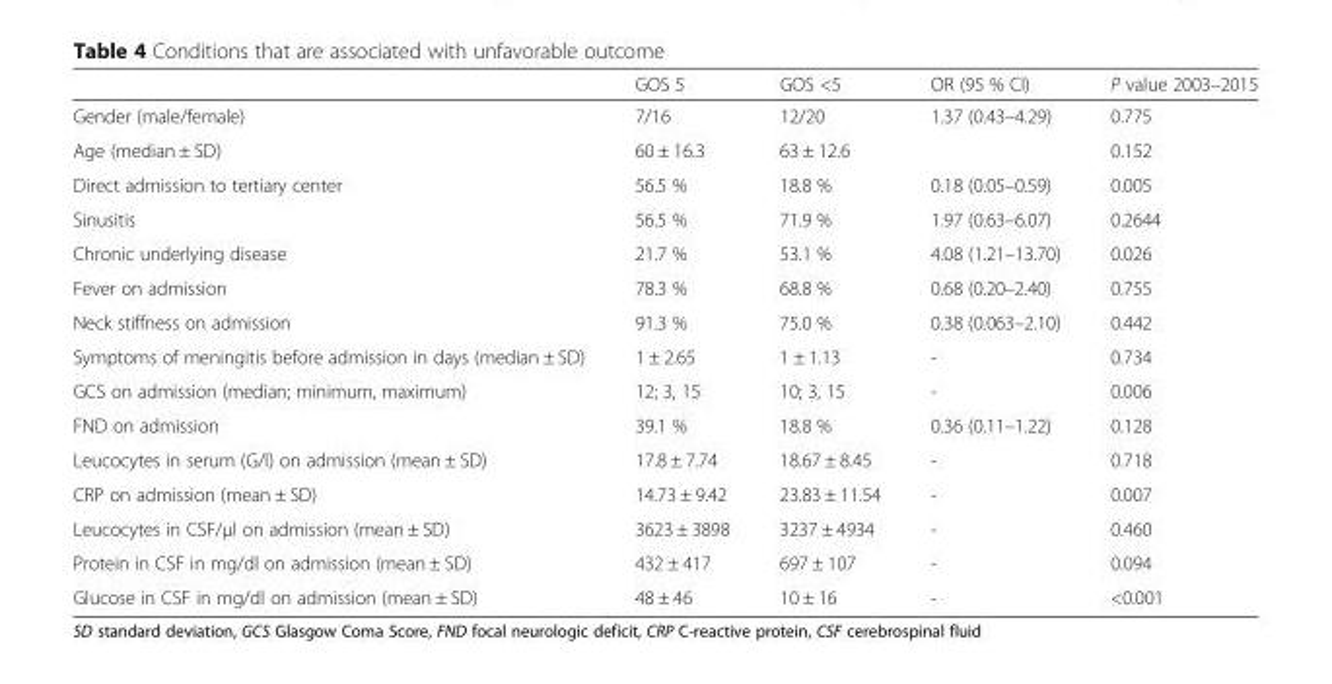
<table><thead><tr><td></td><td>GOS 5</td><td>GOS &lt;5</td><td>OR (95 % CI)</td><td>P value 2003–2015</td></tr></thead><tbody><tr><td>Gender (male/female)</td><td>7/16</td><td>12/20</td><td>1.37 (0.43–4.29)</td><td>0.775</td></tr><tr><td>Age (median ± SD)</td><td>60 ± 16.3</td><td>63 ± 12.6</td><td></td><td>0.152</td></tr><tr><td>Direct admission to tertiary center</td><td>56.5 %</td><td>18.8 %</td><td>0.18 (0.05–0.59)</td><td>0.005</td></tr><tr><td>Sinusitis</td><td>56.5 %</td><td>71.9 %</td><td>1.97 (0.63–6.07)</td><td>0.2644</td></tr><tr><td>Chronic underlying disease</td><td>21.7 %</td><td>53.1 %</td><td>4.08 (1.21–13.70)</td><td>0.026</td></tr><tr><td>Fever on admission</td><td>78.3 %</td><td>68.8 %</td><td>0.68 (0.20–2.40)</td><td>0.755</td></tr><tr><td>Neck stiffness on admission</td><td>91.3 %</td><td>75.0 %</td><td>0.38 (0.063–2.10)</td><td>0.442</td></tr><tr><td>Symptoms of meningitis before admission in days (median ± SD)</td><td>1 ± 2.65</td><td>1 ± 1.13</td><td>-</td><td>0.734</td></tr><tr><td>GCS on admission (median; minimum, maximum)</td><td>12; 3, 15</td><td>10; 3, 15</td><td>-</td><td>0.006</td></tr><tr><td>FND on admission</td><td>39.1 %</td><td>18.8 %</td><td>0.36 (0.11–1.22)</td><td>0.128</td></tr><tr><td>Leucocytes in serum (G/l) on admission (mean ± SD)</td><td>17.8 ± 7.74</td><td>18.67 ± 8.45</td><td>-</td><td>0.718</td></tr><tr><td>CRP on admission (mean ± SD)</td><td>14.73 ± 9.42</td><td>23.83 ± 11.54</td><td>-</td><td>0.007</td></tr><tr><td>Leucocytes in CSF/μl on admission (mean ± SD)</td><td>3623 ± 3898</td><td>3237 ± 4934</td><td>-</td><td>0.460</td></tr><tr><td>Protein in CSF in mg/dl on admission (mean ± SD)</td><td>432 ± 417</td><td>697 ± 107</td><td>-</td><td>0.094</td></tr><tr><td>Glucose in CSF in mg/dl on admission (mean ± SD)</td><td>48 ± 46</td><td>10 ± 16</td><td>-</td><td>&lt;0.001</td></tr></tbody></table>